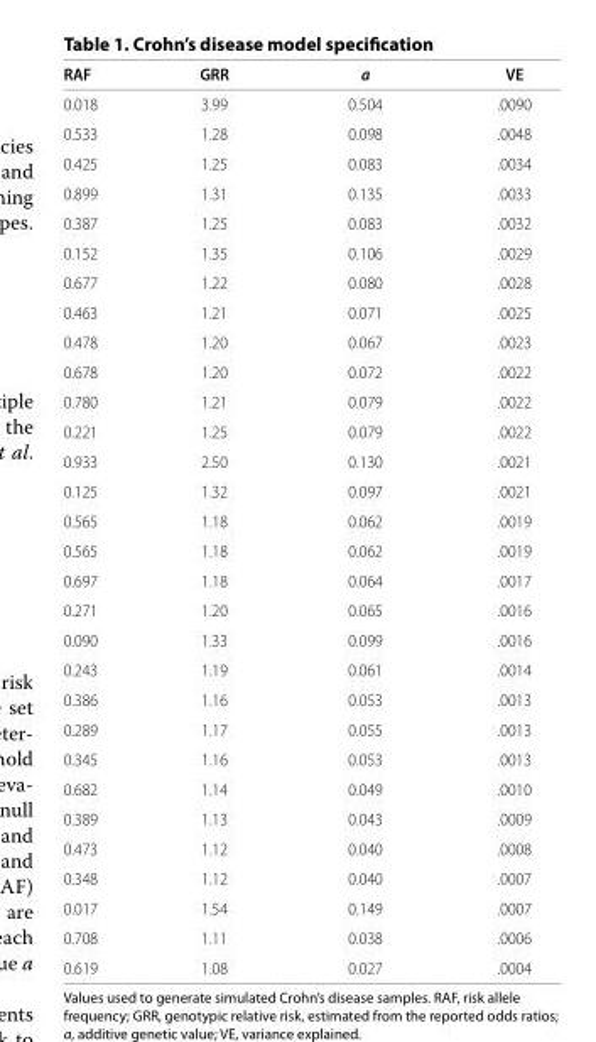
<table><thead><tr><td>RAF</td><td>GRR</td><td>a</td><td>VE</td></tr></thead><tbody><tr><td>0.018</td><td>3.99</td><td>0.504</td><td>.0090</td></tr><tr><td>0.533</td><td>1.28</td><td>0.098</td><td>.0048</td></tr><tr><td>0.425</td><td>1.25</td><td>0.083</td><td>.0034</td></tr><tr><td>0.899</td><td>1.31</td><td>0.135</td><td>.0033</td></tr><tr><td>0.387</td><td>1.25</td><td>0.083</td><td>.0032</td></tr><tr><td>0.152</td><td>1.35</td><td>0.106</td><td>.0029</td></tr><tr><td>0.677</td><td>1.22</td><td>0.080</td><td>.0028</td></tr><tr><td>0.463</td><td>1.21</td><td>0.071</td><td>.0025</td></tr><tr><td>0.478</td><td>1.20</td><td>0.067</td><td>.0023</td></tr><tr><td>0.678</td><td>1.20</td><td>0.072</td><td>.0022</td></tr><tr><td>0.780</td><td>1.21</td><td>0.079</td><td>.0022</td></tr><tr><td>0.221</td><td>1.25</td><td>0.079</td><td>.0022</td></tr><tr><td>0.933</td><td>2.50</td><td>0.130</td><td>.0021</td></tr><tr><td>0.125</td><td>1.32</td><td>0.097</td><td>.0021</td></tr><tr><td>0.565</td><td>1.18</td><td>0.062</td><td>.0019</td></tr><tr><td>0.565</td><td>1.18</td><td>0.062</td><td>.0019</td></tr><tr><td>0.697</td><td>1.18</td><td>0.064</td><td>.0017</td></tr><tr><td>0.271</td><td>1.20</td><td>0.065</td><td>.0016</td></tr><tr><td>0.090</td><td>1.33</td><td>0.099</td><td>.0016</td></tr><tr><td>0.243</td><td>1.19</td><td>0.061</td><td>.0014</td></tr><tr><td>0.386</td><td>1.16</td><td>0.053</td><td>.0013</td></tr><tr><td>0.289</td><td>1.17</td><td>0.055</td><td>.0013</td></tr><tr><td>0.345</td><td>1.16</td><td>0.053</td><td>.0013</td></tr><tr><td>0.682</td><td>1.14</td><td>0.049</td><td>.0010</td></tr><tr><td>0.389</td><td>1.13</td><td>0.043</td><td>.0009</td></tr><tr><td>0.473</td><td>1.12</td><td>0.040</td><td>.0008</td></tr><tr><td>0.348</td><td>1.12</td><td>0.040</td><td>.0007</td></tr><tr><td>0.017</td><td>1.54</td><td>0.149</td><td>.0007</td></tr><tr><td>0.708</td><td>1.11</td><td>0.038</td><td>.0006</td></tr><tr><td>0.619</td><td>1.08</td><td>0.027</td><td>.0004</td></tr></tbody></table>